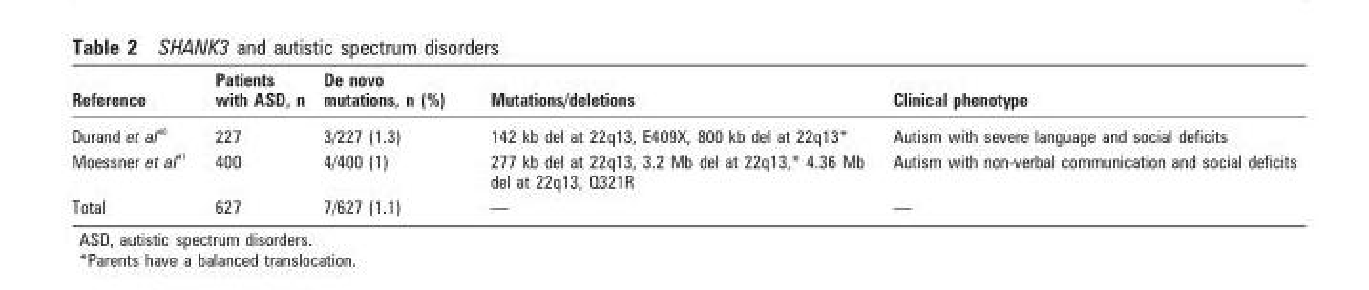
<table><thead><tr><td>Reference</td><td>Patients with ASD, n</td><td>De novo mutations, n (%)</td><td>Mutations/deletions</td><td>Clinical phenotype</td></tr></thead><tbody><tr><td>Durand et al <sup>40</sup></td><td>227</td><td>3/227 (1.3)</td><td>142 kb del at 22q13, E409X, 800 kb del at 22q13*</td><td>Autism with severe language and social deficits</td></tr><tr><td>Moessner et al <sup>41</sup></td><td>400</td><td>4/400 (1)</td><td>277 kb del at 22q13, 3.2 Mb del at 22q13,* 4.36 Mb del at 22q13, Q321R</td><td>Autism with non-verbal communication and social deficits</td></tr><tr><td>Total</td><td>627</td><td>7/627 (1.1)</td><td>—</td><td>—</td></tr></tbody></table>